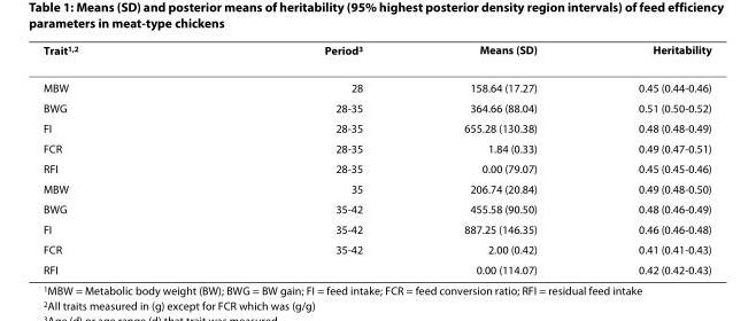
<table><thead><tr><td>Trait<sup>1,2</sup></td><td>Period<sup>3</sup></td><td>Means (SD)</td><td>Heritability</td></tr></thead><tbody><tr><td>MBW</td><td>28</td><td>158.64 (17.27)</td><td>0.45 (0.44-0.46)</td></tr><tr><td>BWG</td><td>28-35</td><td>364.66 (88.04)</td><td>0.51 (0.50-0.52)</td></tr><tr><td>FI</td><td>28-35</td><td>655.28 (130.38)</td><td>0.48 (0.48-0.49)</td></tr><tr><td>FCR</td><td>28-35</td><td>1.84 (0.33)</td><td>0.49 (0.47-0.51)</td></tr><tr><td>RFI</td><td>28-35</td><td>0.00 (79.07)</td><td>0.45 (0.45-0.46)</td></tr><tr><td>MBW</td><td>35</td><td>206.74 (20.84)</td><td>0.49 (0.48-0.50)</td></tr><tr><td>BWG</td><td>35-42</td><td>455.58 (90.50)</td><td>0.48 (0.46-0.49)</td></tr><tr><td>FI</td><td>35-42</td><td>887.25 (146.35)</td><td>0.46 (0.46-0.48)</td></tr><tr><td>FCR</td><td>35-42</td><td>2.00 (0.42)</td><td>0.41 (0.41-0.43)</td></tr><tr><td>RFI</td><td></td><td>0.00 (114.07)</td><td>0.42 (0.42-0.43)</td></tr></tbody></table>